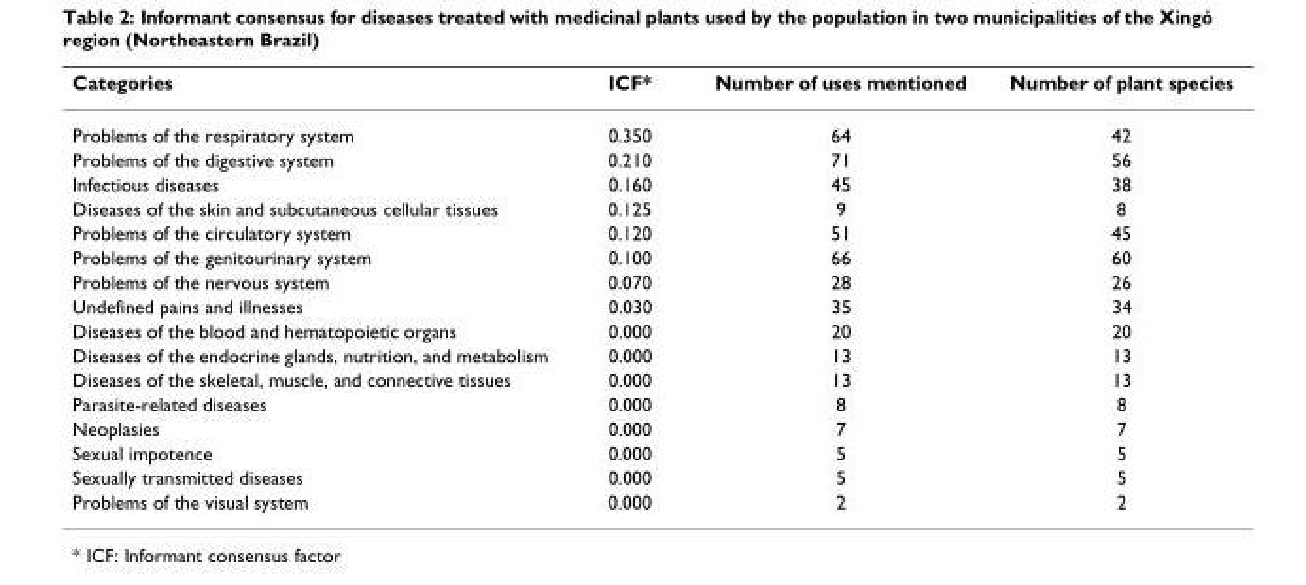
<table><thead><tr><td>Categories</td><td>ICF*</td><td>Number of uses mentioned</td><td>Number of plant species</td></tr></thead><tbody><tr><td>Problems of the respiratory system</td><td>0.350</td><td>64</td><td>42</td></tr><tr><td>Problems of the digestive system</td><td>0.210</td><td>71</td><td>56</td></tr><tr><td>Infectious diseases</td><td>0.160</td><td>45</td><td>38</td></tr><tr><td>Diseases of the skin and subcutaneous cellular tissues</td><td>0.125</td><td>9</td><td>8</td></tr><tr><td>Problems of the circulatory system</td><td>0.120</td><td>51</td><td>45</td></tr><tr><td>Problems of the genitourinary system</td><td>0.100</td><td>66</td><td>60</td></tr><tr><td>Problems of the nervous system</td><td>0.070</td><td>28</td><td>26</td></tr><tr><td>Undefined pains and illnesses</td><td>0.030</td><td>35</td><td>34</td></tr><tr><td>Diseases of the blood and hematopoietic organs</td><td>0.000</td><td>20</td><td>20</td></tr><tr><td>Diseases of the endocrine glands, nutrition, and metabolism</td><td>0.000</td><td>13</td><td>13</td></tr><tr><td>Diseases of the skeletal, muscle, and connective tissues</td><td>0.000</td><td>13</td><td>13</td></tr><tr><td>Parasite-related diseases</td><td>0.000</td><td>8</td><td>8</td></tr><tr><td>Neoplasies</td><td>0.000</td><td>7</td><td>7</td></tr><tr><td>Sexual impotence</td><td>0.000</td><td>5</td><td>5</td></tr><tr><td>Sexually transmitted diseases</td><td>0.000</td><td>5</td><td>5</td></tr><tr><td>Problems of the visual system</td><td>0.000</td><td>2</td><td>2</td></tr></tbody></table>